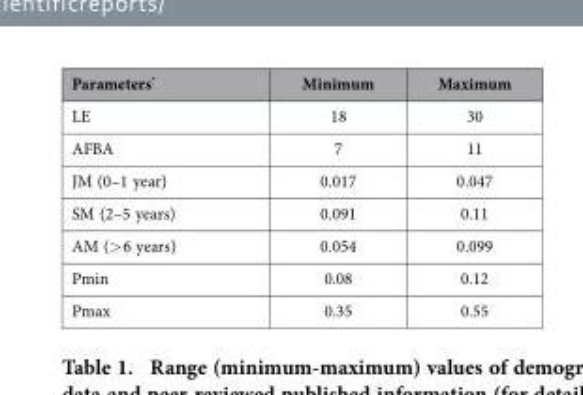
<table><thead><tr><td>Parameters*</td><td>Minimum</td><td>Maximum</td></tr></thead><tbody><tr><td>LE</td><td>18</td><td>30</td></tr><tr><td>AFBA</td><td>7</td><td>11</td></tr><tr><td>JM (0–1 year)</td><td>0.017</td><td>0.047</td></tr><tr><td>SM (2–5 years)</td><td>0.091</td><td>0.11</td></tr><tr><td>AM (&gt; 6 years)</td><td>0.054</td><td>0.099</td></tr><tr><td>Pmin</td><td>0.08</td><td>0.12</td></tr><tr><td>Pmax</td><td>0.35</td><td>0.55</td></tr></tbody></table>